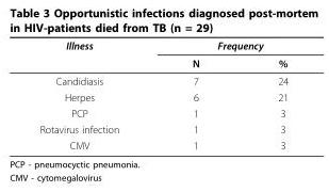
<table><thead><tr><td rowspan="2">Illness</td><td colspan="2">Frequency</td></tr><tr><td>N</td><td>%</td></tr></thead><tbody><tr><td>Candidiasis</td><td>7</td><td>24</td></tr><tr><td>Herpes</td><td>6</td><td>21</td></tr><tr><td>PCP</td><td>1</td><td>3</td></tr><tr><td>Rotavirus infection</td><td>1</td><td>3</td></tr><tr><td>CMV</td><td>1</td><td>3</td></tr></tbody></table>